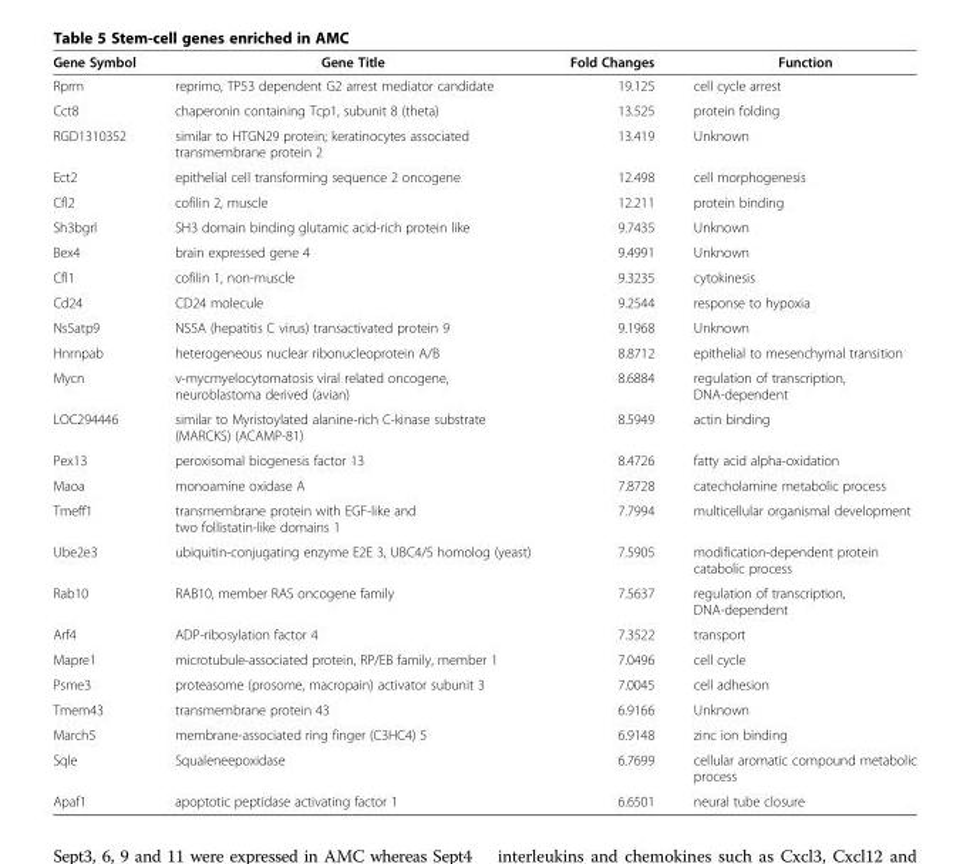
<table><thead><tr><td>Gene Symbol</td><td>Gene Title</td><td>Fold Changes</td><td>Function</td></tr></thead><tbody><tr><td>Rprm</td><td>reprimo, TP53 dependent G2 arrest mediator candidate</td><td>19.125</td><td>cell cycle arrest</td></tr><tr><td>Cct8</td><td>chaperonin containing Tcp1, subunit 8 (theta)</td><td>13.525</td><td>protein folding</td></tr><tr><td>RGD1310352</td><td>similar to HTGN29 protein; keratinocytes associated transmembrane protein 2</td><td>13.419</td><td>Unknown</td></tr><tr><td>Ect2</td><td>epithelial cell transforming sequence 2 oncogene</td><td>12.498</td><td>cell morphogenesis</td></tr><tr><td>Cfl2</td><td>cofilin 2, muscle</td><td>12.211</td><td>protein binding</td></tr><tr><td>Sh3bgrl</td><td>SH3 domain binding glutamic acid-rich protein like</td><td>9.7435</td><td>Unknown</td></tr><tr><td>Bex4</td><td>brain expressed gene 4</td><td>9.4991</td><td>Unknown</td></tr><tr><td>Cfl1</td><td>cofilin 1, non-muscle</td><td>9.3235</td><td>cytokinesis</td></tr><tr><td>Cd24</td><td>CD24 molecule</td><td>9.2544</td><td>response to hypoxia</td></tr><tr><td>Ns5atp9</td><td>NS5A (hepatitis C virus) transactivated protein 9</td><td>9.1968</td><td>Unknown</td></tr><tr><td>Hnrnpab</td><td>heterogeneous nuclear ribonucleoprotein A/B</td><td>8.8712</td><td>epithelial to mesenchymal transition</td></tr><tr><td>Mycn</td><td>v-mycmyelocytomatosis viral related oncogene, neuroblastoma derived (avian)</td><td>8.6884</td><td>regulation of transcription, DNA-dependent</td></tr><tr><td>LOC294446</td><td>similar to Myristoylated alanine-rich C-kinase substrate (MARCKS) (ACAMP-81)</td><td>8.5949</td><td>actin binding</td></tr><tr><td>Pex13</td><td>peroxisomal biogenesis factor 13</td><td>8.4726</td><td>fatty acid alpha-oxidation</td></tr><tr><td>Maoa</td><td>monoamine oxidase A</td><td>7.8728</td><td>catecholamine metabolic process</td></tr><tr><td>Tmeff1</td><td>transmembrane protein with EGF-like and two follistatin-like domains 1</td><td>7.7994</td><td>multicellular organismal development</td></tr><tr><td>Ube2e3</td><td>ubiquitin-conjugating enzyme E2E 3, UBC4/5 homolog (yeast)</td><td>7.5905</td><td>modification-dependent protein catabolic process</td></tr><tr><td>Rab10</td><td>RAB10, member RAS oncogene family</td><td>7.5637</td><td>regulation of transcription, DNA-dependent</td></tr><tr><td>Arf4</td><td>ADP-ribosylation factor 4</td><td>7.3522</td><td>transport</td></tr><tr><td>Mapre1</td><td>microtubule-associated protein, RP/EB family, member 1</td><td>7.0496</td><td>cell cycle</td></tr><tr><td>Psme3</td><td>proteasome (prosome, macropain) activator subunit 3</td><td>7.0045</td><td>cell adhesion</td></tr><tr><td>Tmem43</td><td>transmembrane protein 43</td><td>6.9166</td><td>Unknown</td></tr><tr><td>March5</td><td>membrane-associated ring finger (C3HC4) 5</td><td>6.9148</td><td>zinc ion binding</td></tr><tr><td>Sqle</td><td>Squaleneepoxidase</td><td>6.7699</td><td>cellular aromatic compound metabolic process</td></tr><tr><td>Apaf1</td><td>apoptotic peptidase activating factor 1</td><td>6.6501</td><td>neural tube closure</td></tr></tbody></table>